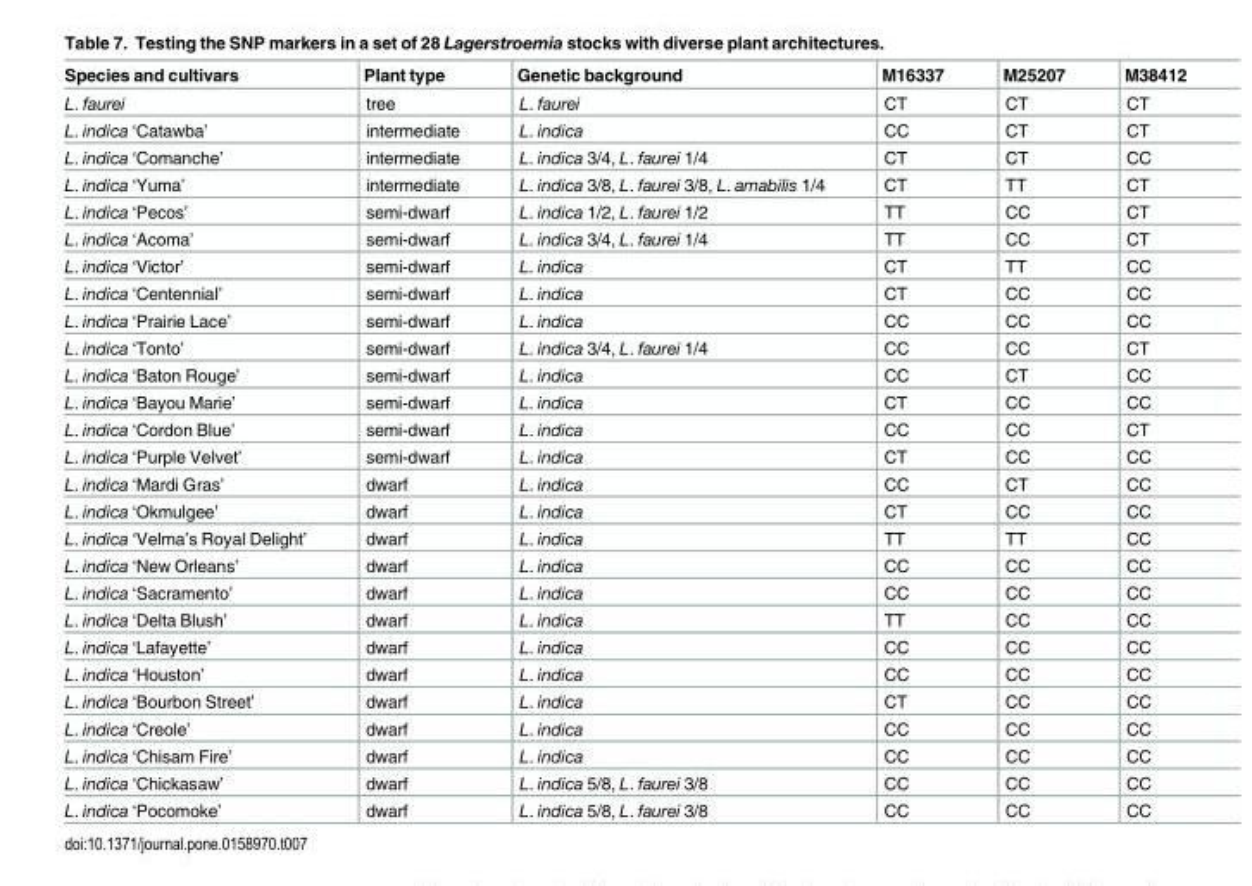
<table><thead><tr><td>Species and cultivars</td><td>Plant type</td><td>Genetic background</td><td>M16337</td><td>M25207</td><td>M38412</td></tr></thead><tbody><tr><td>L. faurei</td><td>tree</td><td>L. faurei</td><td>CT</td><td>CT</td><td>CT</td></tr><tr><td>L. indica ‘Catawba’</td><td>intermediate</td><td>L. indica</td><td>CC</td><td>CT</td><td>CT</td></tr><tr><td>L. indica ‘Comanche’</td><td>intermediate</td><td>L. indica 3/4, L. faurei 1/4</td><td>CT</td><td>CT</td><td>CC</td></tr><tr><td>L. indica ‘Yuma’</td><td>intermediate</td><td>L. indica 3/8, L. faurei 3/8, L. amabilis 1/4</td><td>CT</td><td>TT</td><td>CT</td></tr><tr><td>L. indica ‘Pecos’</td><td>semi-dwarf</td><td>L. indica 1/2, L. faurei 1/2</td><td>TT</td><td>CC</td><td>CT</td></tr><tr><td>L. indica ‘Acoma’</td><td>semi-dwarf</td><td>L. indica 3/4, L. faurei 1/4</td><td>TT</td><td>CC</td><td>CT</td></tr><tr><td>L. indica ‘Victor’</td><td>semi-dwarf</td><td>L. indica</td><td>CT</td><td>TT</td><td>CC</td></tr><tr><td>L. indica ‘Centennial’</td><td>semi-dwarf</td><td>L. indica</td><td>CT</td><td>CC</td><td>CC</td></tr><tr><td>L. indica ‘Prairie Lace’</td><td>semi-dwarf</td><td>L. indica</td><td>CC</td><td>CC</td><td>CC</td></tr><tr><td>L. indica ‘Tonto’</td><td>semi-dwarf</td><td>L. indica 3/4, L. faurei 1/4</td><td>CC</td><td>CC</td><td>CT</td></tr><tr><td>L. indica ‘Baton Rouge’</td><td>semi-dwarf</td><td>L. indica</td><td>CC</td><td>CT</td><td>CC</td></tr><tr><td>L. indica ‘Bayou Marie’</td><td>semi-dwarf</td><td>L. indica</td><td>CT</td><td>CC</td><td>CC</td></tr><tr><td>L. indica ‘Cordon Blue’</td><td>semi-dwarf</td><td>L. indica</td><td>CC</td><td>CC</td><td>CT</td></tr><tr><td>L. indica ‘Purple Velvet’</td><td>semi-dwarf</td><td>L. indica</td><td>CT</td><td>CC</td><td>CC</td></tr><tr><td>L. indica ‘Mardi Gras’</td><td>dwarf</td><td>L. indica</td><td>CC</td><td>CT</td><td>CC</td></tr><tr><td>L. indica ‘Okmulgee’</td><td>dwarf</td><td>L. indica</td><td>CT</td><td>CC</td><td>CC</td></tr><tr><td>L. indica ‘Velma’s Royal Delight’</td><td>dwarf</td><td>L. indica</td><td>TT</td><td>TT</td><td>CC</td></tr><tr><td>L. indica ‘New Orleans’</td><td>dwarf</td><td>L. indica</td><td>CC</td><td>CC</td><td>CC</td></tr><tr><td>L. indica ‘Sacramento’</td><td>dwarf</td><td>L. indica</td><td>CC</td><td>CC</td><td>CC</td></tr><tr><td>L. indica ‘Delta Blush’</td><td>dwarf</td><td>L. indica</td><td>TT</td><td>CC</td><td>CC</td></tr><tr><td>L. indica ‘Lafayette’</td><td>dwarf</td><td>L. indica</td><td>CC</td><td>CC</td><td>CC</td></tr><tr><td>L. indica ‘Houston’</td><td>dwarf</td><td>L. indica</td><td>CC</td><td>CC</td><td>CC</td></tr><tr><td>L. indica ‘Bourbon Street’</td><td>dwarf</td><td>L. indica</td><td>CT</td><td>CC</td><td>CC</td></tr><tr><td>L. indica ‘Creole’</td><td>dwarf</td><td>L. indica</td><td>CC</td><td>CC</td><td>CC</td></tr><tr><td>L. indica ‘Chisam Fire’</td><td>dwarf</td><td>L. indica</td><td>CC</td><td>CC</td><td>CC</td></tr><tr><td>L. indica ‘Chickasaw’</td><td>dwarf</td><td>L. indica 5/8, L. faurei 3/8</td><td>CC</td><td>CC</td><td>CC</td></tr><tr><td>L. indica ‘Pocomoke’</td><td>dwarf</td><td>L. indica 5/8, L. faurei 3/8</td><td>CC</td><td>CC</td><td>CC</td></tr></tbody></table>